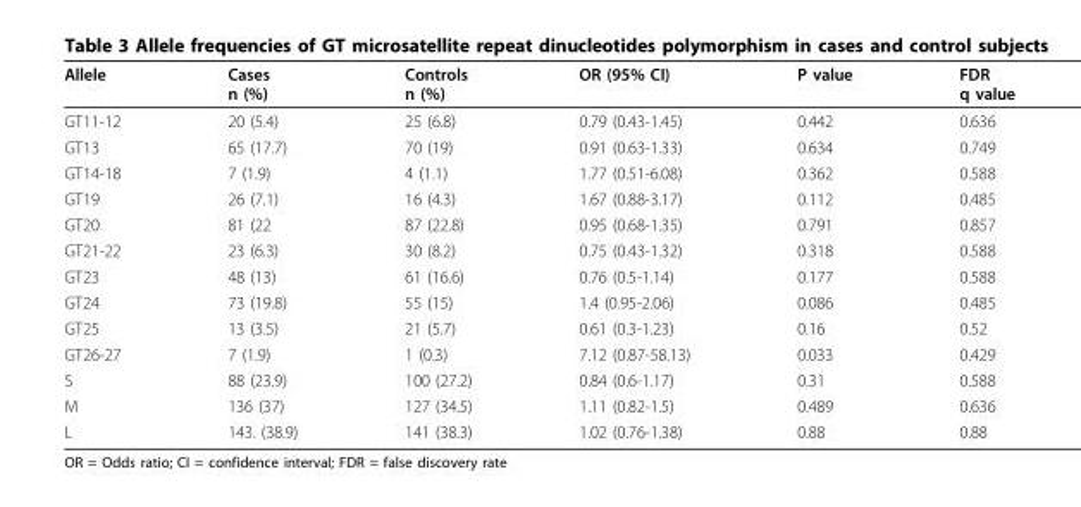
<table><thead><tr><td>Allele</td><td>Cases n (%)</td><td>Controls n (%)</td><td>OR (95% CI)</td><td>P value</td><td>FDR q value</td></tr></thead><tbody><tr><td>GT11-12</td><td>20 (5.4)</td><td>25 (6.8)</td><td>0.79 (0.43-1.45)</td><td>0.442</td><td>0.636</td></tr><tr><td>GT13</td><td>65 (17.7)</td><td>70 (19)</td><td>0.91 (0.63-1.33)</td><td>0.634</td><td>0.749</td></tr><tr><td>GT14-18</td><td>7 (1.9)</td><td>4 (1.1)</td><td>1.77 (0.51-6.08)</td><td>0.362</td><td>0.588</td></tr><tr><td>GT19</td><td>26 (7.1)</td><td>16 (4.3)</td><td>1.67 (0.88-3.17)</td><td>0.112</td><td>0.485</td></tr><tr><td>GT20</td><td>81 (22</td><td>87 (22.8)</td><td>0.95 (0.68-1.35)</td><td>0.791</td><td>0.857</td></tr><tr><td>GT21-22</td><td>23 (6.3)</td><td>30 (8.2)</td><td>0.75 (0.43-1.32)</td><td>0.318</td><td>0.588</td></tr><tr><td>GT23</td><td>48 (13)</td><td>61 (16.6)</td><td>0.76 (0.5-1.14)</td><td>0.177</td><td>0.588</td></tr><tr><td>GT24</td><td>73 (19.8)</td><td>55 (15)</td><td>1.4 (0.95-2.06)</td><td>0.086</td><td>0.485</td></tr><tr><td>GT25</td><td>13 (3.5)</td><td>21 (5.7)</td><td>0.61 (0.3-1.23)</td><td>0.16</td><td>0.52</td></tr><tr><td>GT26-27</td><td>7 (1.9)</td><td>1 (0.3)</td><td>7.12 (0.87-58.13)</td><td>0.033</td><td>0.429</td></tr><tr><td>S</td><td>88 (23.9)</td><td>100 (27.2)</td><td>0.84 (0.6-1.17)</td><td>0.31</td><td>0.588</td></tr><tr><td>M</td><td>136 (37)</td><td>127 (34.5)</td><td>1.11 (0.82-1.5)</td><td>0.489</td><td>0.636</td></tr><tr><td>L</td><td>143. (38.9)</td><td>141 (38.3)</td><td>1.02 (0.76-1.38)</td><td>0.88</td><td>0.88</td></tr></tbody></table>